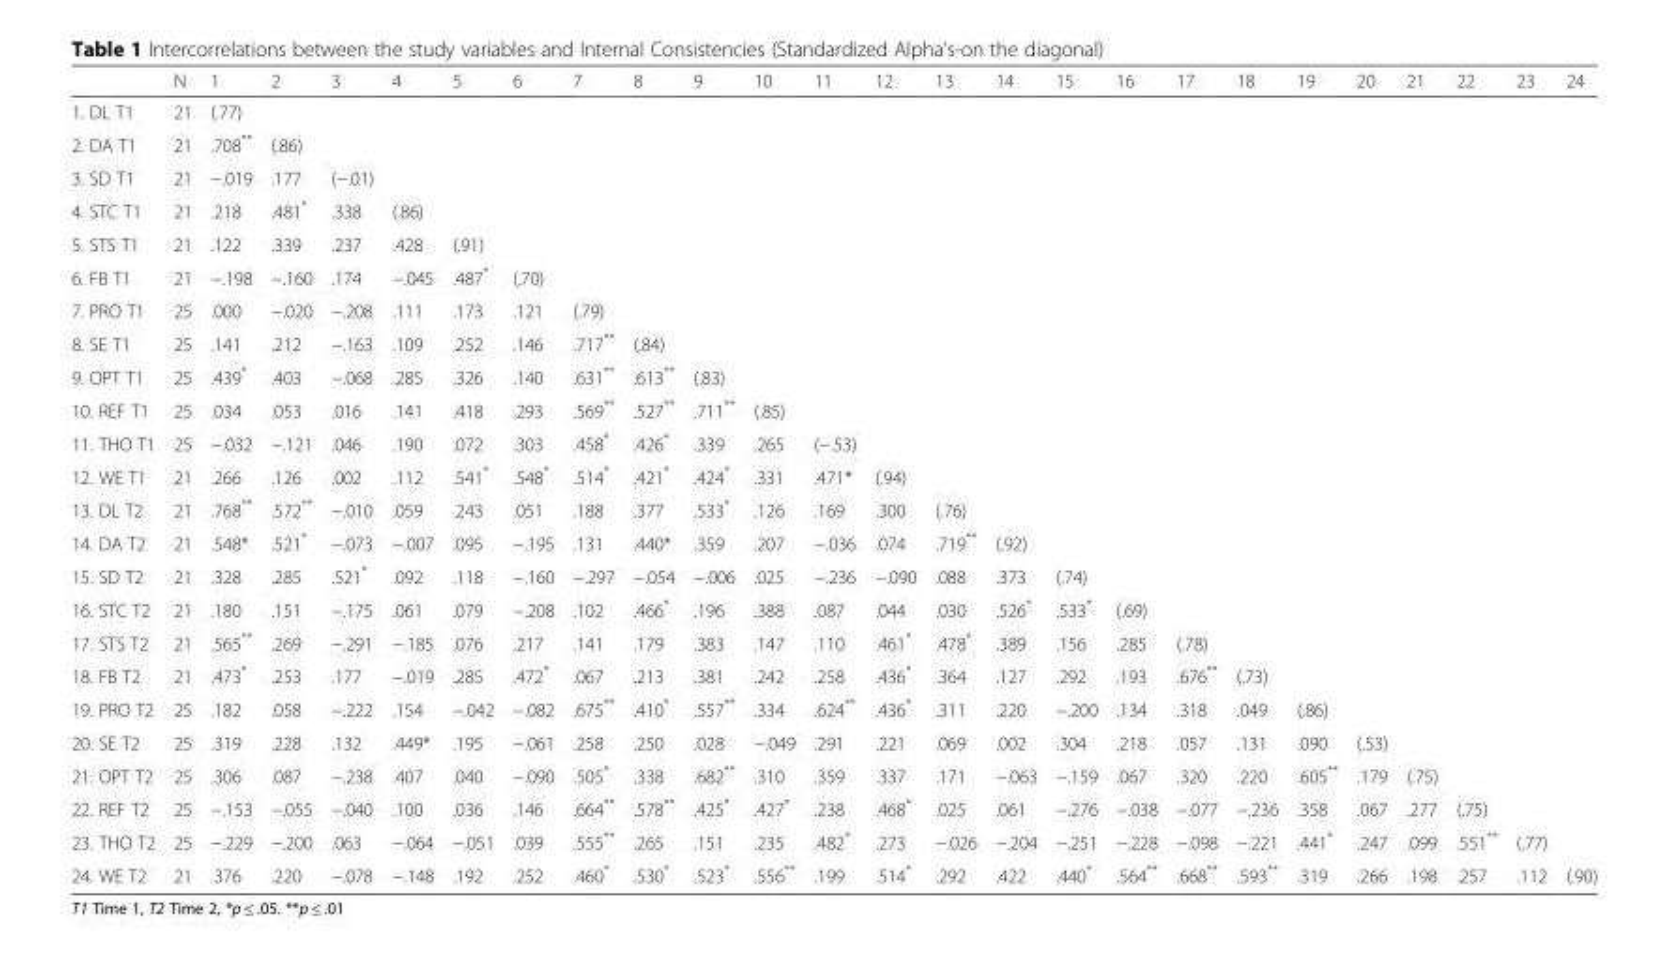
<table><thead><tr><td></td><td>N</td><td>1</td><td>2</td><td>3</td><td>4</td><td>5</td><td>6</td><td>7</td><td>8</td><td>9</td><td>10</td><td>11</td><td>12</td><td>13</td><td>14</td><td>15</td><td>16</td><td>17</td><td>18</td><td>19</td><td>20</td><td>21</td><td>22</td><td>23</td><td>24</td></tr></thead><tbody><tr><td>1. DL T1</td><td>21</td><td>(.77)</td><td></td><td></td><td></td><td></td><td></td><td></td><td></td><td></td><td></td><td></td><td></td><td></td><td></td><td></td><td></td><td></td><td></td><td></td><td></td><td></td><td></td><td></td><td></td></tr><tr><td>2. DA T1</td><td>21</td><td>.708**</td><td>(.86)</td><td></td><td></td><td></td><td></td><td></td><td></td><td></td><td></td><td></td><td></td><td></td><td></td><td></td><td></td><td></td><td></td><td></td><td></td><td></td><td></td><td></td><td></td></tr><tr><td>3. SD T1</td><td>21</td><td>−.019</td><td>.177</td><td>(−.01)</td><td></td><td></td><td></td><td></td><td></td><td></td><td></td><td></td><td></td><td></td><td></td><td></td><td></td><td></td><td></td><td></td><td></td><td></td><td></td><td></td><td></td></tr><tr><td>4. STC T1</td><td>21</td><td>.218</td><td>.481*</td><td>.338</td><td>(.86)</td><td></td><td></td><td></td><td></td><td></td><td></td><td></td><td></td><td></td><td></td><td></td><td></td><td></td><td></td><td></td><td></td><td></td><td></td><td></td><td></td></tr><tr><td>5. STS T1</td><td>21</td><td>.122</td><td>.339</td><td>.237</td><td>.428</td><td>(.91)</td><td></td><td></td><td></td><td></td><td></td><td></td><td></td><td></td><td></td><td></td><td></td><td></td><td></td><td></td><td></td><td></td><td></td><td></td><td></td></tr><tr><td>6. FB T1</td><td>21</td><td>−.198</td><td>−.160</td><td>.174</td><td>−.045</td><td>.487*</td><td>(.70)</td><td></td><td></td><td></td><td></td><td></td><td></td><td></td><td></td><td></td><td></td><td></td><td></td><td></td><td></td><td></td><td></td><td></td><td></td></tr><tr><td>7. PRO T1</td><td>25</td><td>.000</td><td>−.020</td><td>−.208</td><td>.111</td><td>.173</td><td>.121</td><td>(.79)</td><td></td><td></td><td></td><td></td><td></td><td></td><td></td><td></td><td></td><td></td><td></td><td></td><td></td><td></td><td></td><td></td><td></td></tr><tr><td>8. SE T1</td><td>25</td><td>.141</td><td>.212</td><td>−.163</td><td>.109</td><td>.252</td><td>.146</td><td>.717**</td><td>(.84)</td><td></td><td></td><td></td><td></td><td></td><td></td><td></td><td></td><td></td><td></td><td></td><td></td><td></td><td></td><td></td><td></td></tr><tr><td>9. OPT T1</td><td>25</td><td>.439*</td><td>.403</td><td>−.068</td><td>.285</td><td>.326</td><td>.140</td><td>.631**</td><td>.613**</td><td>(.83)</td><td></td><td></td><td></td><td></td><td></td><td></td><td></td><td></td><td></td><td></td><td></td><td></td><td></td><td></td><td></td></tr><tr><td>10. REF T1</td><td>25</td><td>.034</td><td>.053</td><td>.016</td><td>.141</td><td>.418</td><td>.293</td><td>.569**</td><td>.527**</td><td>.711**</td><td>(.85)</td><td></td><td></td><td></td><td></td><td></td><td></td><td></td><td></td><td></td><td></td><td></td><td></td><td></td><td></td></tr><tr><td>11. THO T1</td><td>25</td><td>−.032</td><td>−.121</td><td>.046</td><td>.190</td><td>.072</td><td>.303</td><td>.458*</td><td>.426*</td><td>.339</td><td>.265</td><td>(−.53)</td><td></td><td></td><td></td><td></td><td></td><td></td><td></td><td></td><td></td><td></td><td></td><td></td><td></td></tr><tr><td>12. WE T1</td><td>21</td><td>.266</td><td>.126</td><td>.002</td><td>.112</td><td>.541*</td><td>.548*</td><td>.514*</td><td>.421*</td><td>.424*</td><td>.331</td><td>.471*</td><td>(.94)</td><td></td><td></td><td></td><td></td><td></td><td></td><td></td><td></td><td></td><td></td><td></td><td></td></tr><tr><td>13. DL T2</td><td>21</td><td>.768**</td><td>.572**</td><td>−.010</td><td>.059</td><td>.243</td><td>.051</td><td>.188</td><td>.377</td><td>.533*</td><td>.126</td><td>.169</td><td>.300</td><td>(.76)</td><td></td><td></td><td></td><td></td><td></td><td></td><td></td><td></td><td></td><td></td><td></td></tr><tr><td>14. DA T2</td><td>21</td><td>.548*</td><td>.521*</td><td>−.073</td><td>−.007</td><td>.095</td><td>−.195</td><td>.131</td><td>.440*</td><td>.359</td><td>.207</td><td>−.036</td><td>.074</td><td>.719**</td><td>(.92)</td><td></td><td></td><td></td><td></td><td></td><td></td><td></td><td></td><td></td><td></td></tr><tr><td>15. SD T2</td><td>21</td><td>.328</td><td>.285</td><td>.521*</td><td>.092</td><td>.118</td><td>−.160</td><td>−.297</td><td>−.054</td><td>−.006</td><td>.025</td><td>−.236</td><td>−.090</td><td>.088</td><td>.373</td><td>(.74)</td><td></td><td></td><td></td><td></td><td></td><td></td><td></td><td></td><td></td></tr><tr><td>16. STC T2</td><td>21</td><td>.180</td><td>.151</td><td>−.175</td><td>.061</td><td>.079</td><td>−.208</td><td>.102</td><td>.466*</td><td>.196</td><td>.388</td><td>.087</td><td>.044</td><td>.030</td><td>.526*</td><td>.533*</td><td>(.69)</td><td></td><td></td><td></td><td></td><td></td><td></td><td></td><td></td></tr><tr><td>17. STS T2</td><td>21</td><td>.565**</td><td>.269</td><td>−.291</td><td>−.185</td><td>.076</td><td>.217</td><td>.141</td><td>.179</td><td>.383</td><td>.147</td><td>.110</td><td>.461*</td><td>.478*</td><td>.389</td><td>.156</td><td>.285</td><td>(.78)</td><td></td><td></td><td></td><td></td><td></td><td></td><td></td></tr><tr><td>18. FB T2</td><td>21</td><td>.473*</td><td>.253</td><td>.177</td><td>−.019</td><td>.285</td><td>.472*</td><td>.067</td><td>.213</td><td>.381</td><td>.242</td><td>.258</td><td>.436*</td><td>.364</td><td>.127</td><td>.292</td><td>.193</td><td>.676**</td><td>(.73)</td><td></td><td></td><td></td><td></td><td></td><td></td></tr><tr><td>19. PRO T2</td><td>25</td><td>.182</td><td>.058</td><td>−.222</td><td>.154</td><td>−.042</td><td>−.082</td><td>.675**</td><td>.410*</td><td>.557**</td><td>.334</td><td>.624**</td><td>.436*</td><td>.311</td><td>.220</td><td>−.200</td><td>.134</td><td>.318</td><td>.049</td><td>(.86)</td><td></td><td></td><td></td><td></td><td></td></tr><tr><td>20. SE T2</td><td>25</td><td>.319</td><td>.228</td><td>.132</td><td>.449*</td><td>.195</td><td>−.061</td><td>.258</td><td>.250</td><td>.028</td><td>−.049</td><td>.291</td><td>.221</td><td>.069</td><td>.002</td><td>.304</td><td>.218</td><td>.057</td><td>.131</td><td>.090</td><td>(.53)</td><td></td><td></td><td></td><td></td></tr><tr><td>21. OPT T2</td><td>25</td><td>.306</td><td>.087</td><td>−.238</td><td>.407</td><td>.040</td><td>−.090</td><td>.505*</td><td>.338</td><td>.682**</td><td>.310</td><td>.359</td><td>.337</td><td>.171</td><td>−.063</td><td>−.159</td><td>.067</td><td>.320</td><td>.220</td><td>.605**</td><td>.179</td><td>(.75)</td><td></td><td></td><td></td></tr><tr><td>22. REF T2</td><td>25</td><td>−.153</td><td>−.055</td><td>−.040</td><td>.100</td><td>.036</td><td>.146</td><td>.664**</td><td>.578**</td><td>.425*</td><td>.427*</td><td>.238</td><td>.468*</td><td>.025</td><td>.061</td><td>−.276</td><td>−.038</td><td>−.077</td><td>−.236</td><td>.358</td><td>.067</td><td>.277</td><td>(.75)</td><td></td><td></td></tr><tr><td>23. THO T2</td><td>25</td><td>−.229</td><td>−.200</td><td>.063</td><td>−.064</td><td>−.051</td><td>.039</td><td>.555**</td><td>.265</td><td>.151</td><td>.235</td><td>.482*</td><td>.273</td><td>−.026</td><td>−.204</td><td>−.251</td><td>−.228</td><td>−.098</td><td>−.221</td><td>.441*</td><td>.247</td><td>.099</td><td>.551**</td><td>(.77)</td><td></td></tr><tr><td>24. WE T2</td><td>21</td><td>.376</td><td>.220</td><td>−.078</td><td>−.148</td><td>.192</td><td>.252</td><td>.460*</td><td>.530*</td><td>.523*</td><td>.556**</td><td>.199</td><td>.514*</td><td>.292</td><td>.422</td><td>.440*</td><td>.564**</td><td>.668**</td><td>.593**</td><td>.319</td><td>.266</td><td>.198</td><td>.257</td><td>.112</td><td>(.90)</td></tr></tbody></table>